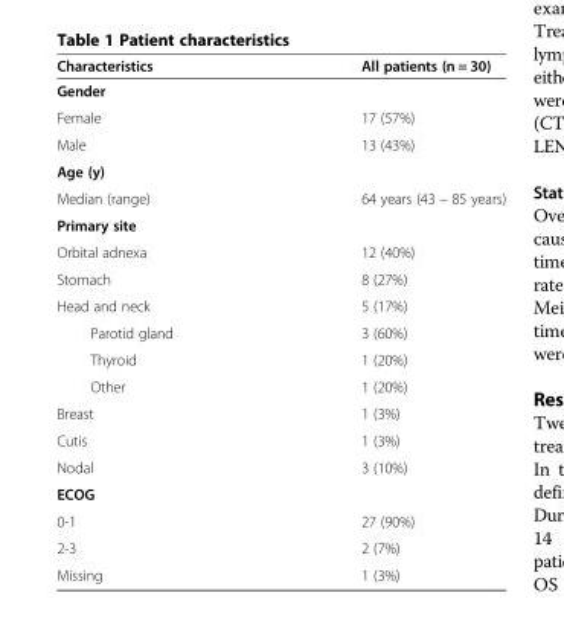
<table><thead><tr><td>Characteristics</td><td>All patients (n = 30)</td></tr></thead><tbody><tr><td colspan="2">Gender</td></tr><tr><td>Female</td><td>17 (57%)</td></tr><tr><td>Male</td><td>13 (43%)</td></tr><tr><td colspan="2">Age (y)</td></tr><tr><td>Median (range)</td><td>64 years (43 – 85 years)</td></tr><tr><td colspan="2">Primary site</td></tr><tr><td>Orbital adnexa</td><td>12 (40%)</td></tr><tr><td>Stomach</td><td>8 (27%)</td></tr><tr><td>Head and neck</td><td>5 (17%)</td></tr><tr><td>Parotid gland</td><td>3 (60%)</td></tr><tr><td>Thyroid</td><td>1 (20%)</td></tr><tr><td>Other</td><td>1 (20%)</td></tr><tr><td>Breast</td><td>1 (3%)</td></tr><tr><td>Cutis</td><td>1 (3%)</td></tr><tr><td>Nodal</td><td>3 (10%)</td></tr><tr><td colspan="2">ECOG</td></tr><tr><td>0-1</td><td>27 (90%)</td></tr><tr><td>2-3</td><td>2 (7%)</td></tr><tr><td>Missing</td><td>1 (3%)</td></tr></tbody></table>